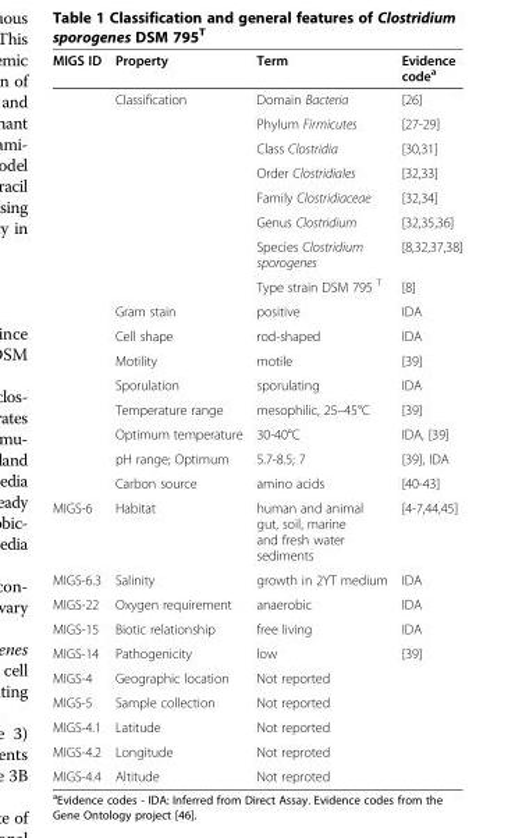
<table><thead><tr><td>MIGS ID</td><td>Property</td><td>Term</td><td>Evidence code<sup>a</sup></td></tr></thead><tbody><tr><td></td><td rowspan="8">Classification</td><td>Domain Bacteria</td><td>[26]</td></tr><tr><td></td><td>Phylum Firmicutes</td><td>[27-29]</td></tr><tr><td></td><td>Class Clostridia</td><td>[30,31]</td></tr><tr><td></td><td>Order Clostridiales</td><td>[32,33]</td></tr><tr><td></td><td>Family Clostridiaceae</td><td>[32,34]</td></tr><tr><td></td><td>Genus Clostridium</td><td>[32,35,36]</td></tr><tr><td></td><td>Species Clostridium sporogenes</td><td>[8,32,37,38]</td></tr><tr><td></td><td>Type strain DSM 795 <sup>T</sup></td><td>[8]</td></tr><tr><td></td><td>Gram stain</td><td>positive</td><td>IDA</td></tr><tr><td></td><td>Cell shape</td><td>rod-shaped</td><td>IDA</td></tr><tr><td></td><td>Motility</td><td>motile</td><td>[39]</td></tr><tr><td></td><td>Sporulation</td><td>sporulating</td><td>IDA</td></tr><tr><td></td><td>Temperature range</td><td>mesophilic, 25–45°C</td><td>[39]</td></tr><tr><td></td><td>Optimum temperature</td><td>30-40°C</td><td>IDA, [39]</td></tr><tr><td></td><td>pH range; Optimum</td><td>5.7-8.5; 7</td><td>[39], IDA</td></tr><tr><td></td><td>Carbon source</td><td>amino acids</td><td>[40-43]</td></tr><tr><td>MIGS-6</td><td>Habitat</td><td>human and animal gut, soil, marine and fresh water sediments</td><td>[4-7,44,45]</td></tr><tr><td>MIGS-6.3</td><td>Salinity</td><td>growth in 2YT medium</td><td>IDA</td></tr><tr><td>MIGS-22</td><td>Oxygen requirement</td><td>anaerobic</td><td>IDA</td></tr><tr><td>MIGS-15</td><td>Biotic relationship</td><td>free living</td><td>IDA</td></tr><tr><td>MIGS-14</td><td>Pathogenicity</td><td>low</td><td>[39]</td></tr><tr><td>MIGS-4</td><td>Geographic location</td><td>Not reported</td><td></td></tr><tr><td>MIGS-5</td><td>Sample collection</td><td>Not reported</td><td></td></tr><tr><td>MIGS-4.1</td><td>Latitude</td><td>Not reported</td><td></td></tr><tr><td>MIGS-4.2</td><td>Longitude</td><td>Not reproted</td><td></td></tr><tr><td>MIGS-4.4</td><td>Altitude</td><td>Not reproted</td><td></td></tr></tbody></table>